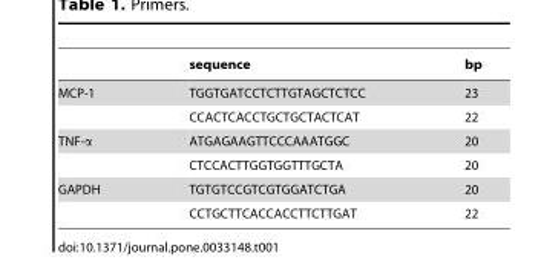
<table><thead><tr><td></td><td>sequence</td><td>bp</td></tr></thead><tbody><tr><td rowspan="2">MCP-1</td><td>TGGTGATCCTCTTGTAGCTCTCC</td><td>23</td></tr><tr><td>CCACTCACCTGCTGCTACTCAT</td><td>22</td></tr><tr><td rowspan="2">TNF-α</td><td>ATGAGAAGTTCCCAAATGGC</td><td>20</td></tr><tr><td>CTCCACTTGGTGGTTTGCTA</td><td>20</td></tr><tr><td rowspan="2">GAPDH</td><td>TGTGTCCGTCGTGGATCTGA</td><td>20</td></tr><tr><td>CCTGCTTCACCACCTTCTTGAT</td><td>22</td></tr></tbody></table>